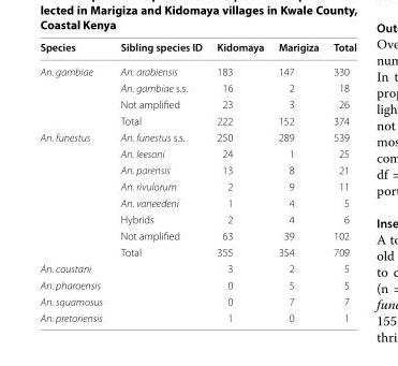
<table><thead><tr><td>Species</td><td>Sibling species ID</td><td>Kidomaya</td><td>Marigiza</td><td>Total</td></tr></thead><tbody><tr><td rowspan="4">An. gambiae</td><td>An. arabiensis</td><td>183</td><td>147</td><td>330</td></tr><tr><td>An. gambiae s.s.</td><td>16</td><td>2</td><td>18</td></tr><tr><td>Not amplified</td><td>23</td><td>3</td><td>26</td></tr><tr><td>Total</td><td>222</td><td>152</td><td>374</td></tr><tr><td rowspan="8">An. funestus</td><td>An. funestus s.s.</td><td>250</td><td>289</td><td>539</td></tr><tr><td>An. leesoni</td><td>24</td><td>1</td><td>25</td></tr><tr><td>An. parensis</td><td>13</td><td>8</td><td>21</td></tr><tr><td>An. rivulorum</td><td>2</td><td>9</td><td>11</td></tr><tr><td>An. vaneedeni</td><td>1</td><td>4</td><td>5</td></tr><tr><td>Hybrids</td><td>2</td><td>4</td><td>6</td></tr><tr><td>Not amplified</td><td>63</td><td>39</td><td>102</td></tr><tr><td>Total</td><td>355</td><td>354</td><td>709</td></tr><tr><td>An. coustani</td><td></td><td>3</td><td>2</td><td>5</td></tr><tr><td>An. pharoensis</td><td></td><td>0</td><td>5</td><td>5</td></tr><tr><td>An. squamosus</td><td></td><td>0</td><td>7</td><td>7</td></tr><tr><td>An. pretoriensis</td><td></td><td>1</td><td>0</td><td>1</td></tr></tbody></table>